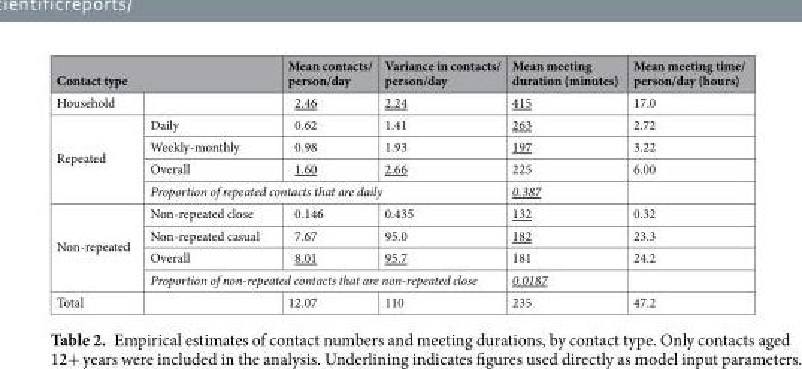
<table><thead><tr><td colspan="2">Contact type</td><td rowspan="2">Mean contacts/ person/day 2.46</td><td rowspan="2">Variance in contacts/ person/day 2.24</td><td rowspan="2">Mean meeting duration (minutes) 415</td><td rowspan="2">Mean meeting time/ person/day (hours) 17.0</td></tr><tr><td>Household</td><td></td></tr></thead><tbody><tr><td rowspan="4">Repeated</td><td>Daily</td><td>0.62</td><td>1.41</td><td>263</td><td>2.72</td></tr><tr><td>Weekly-monthly</td><td>0.98</td><td>1.93</td><td>197</td><td>3.22</td></tr><tr><td>Overall</td><td>1.60</td><td>2.66</td><td>225</td><td>6.00</td></tr><tr><td colspan="3">Proportion of repeated contacts that are daily</td><td>0.387</td><td></td></tr><tr><td rowspan="4">Non-repeated</td><td>Non-repeated close</td><td>0.146</td><td>0.435</td><td>132</td><td>0.32</td></tr><tr><td>Non-repeated casual</td><td>7.67</td><td>95.0</td><td>182</td><td>23.3</td></tr><tr><td>Overall</td><td>8.01</td><td>95.7</td><td>181</td><td>24.2</td></tr><tr><td colspan="3">Proportion of non-repeated contacts that are non-repeated close</td><td>0.0187</td><td></td></tr><tr><td>Total</td><td></td><td>12.07</td><td>110</td><td>235</td><td>47.2</td></tr></tbody></table>